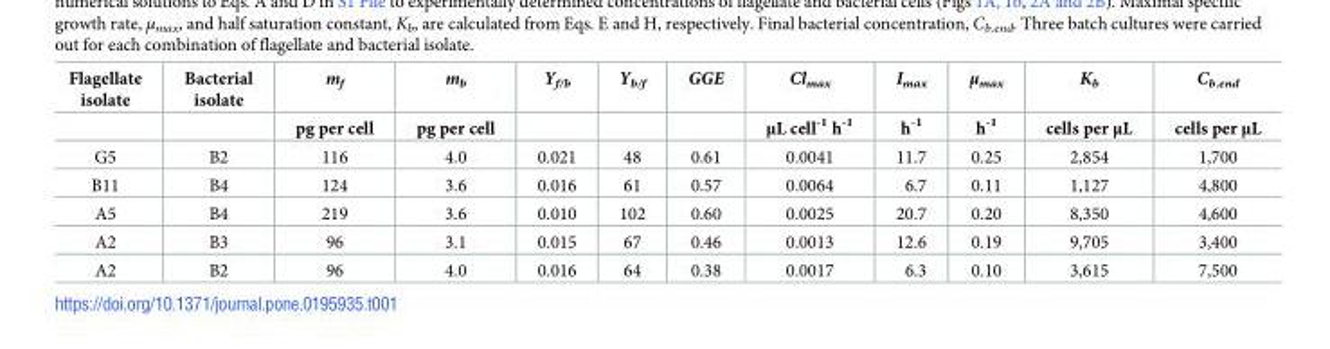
<table><thead><tr><td rowspan="2">Flagellate isolate</td><td rowspan="2">Bacterial isolate</td><td rowspan="2">m<sub>f</sub> pg per cell</td><td rowspan="2">m<sub>b</sub> pg per cell</td><td rowspan="2">Y<sub>f/b</sub></td><td rowspan="2">Y<sub>b/f</sub></td><td rowspan="2">GGE</td><td rowspan="2">Cl<sub>max</sub> μL cell<sup>-1</sup> h<sup>-1</sup></td><td rowspan="2">I<sub>max</sub> h<sup>-1</sup></td><td rowspan="2">μ<sub>max</sub> h<sup>-1</sup></td><td rowspan="2">K<sub>b</sub> cells per μL</td><td rowspan="2">C<sub>b.end</sub> cells per μL</td></tr><tr></tr></thead><tbody><tr><td>G5</td><td>B2</td><td>116</td><td>4.0</td><td>0.021</td><td>48</td><td>0.61</td><td>0.0041</td><td>11.7</td><td>0.25</td><td>2,854</td><td>1,700</td></tr><tr><td>B11</td><td>B4</td><td>124</td><td>3.6</td><td>0.016</td><td>61</td><td>0.57</td><td>0.0064</td><td>6.7</td><td>0.11</td><td>1,127</td><td>4,800</td></tr><tr><td>A5</td><td>B4</td><td>219</td><td>3.6</td><td>0.010</td><td>102</td><td>0.60</td><td>0.0025</td><td>20.7</td><td>0.20</td><td>8,350</td><td>4,600</td></tr><tr><td>A2</td><td>B3</td><td>96</td><td>3.1</td><td>0.015</td><td>67</td><td>0.46</td><td>0.0013</td><td>12.6</td><td>0.19</td><td>9,705</td><td>3,400</td></tr><tr><td>A2</td><td>B2</td><td>96</td><td>4.0</td><td>0.016</td><td>64</td><td>0.38</td><td>0.0017</td><td>6.3</td><td>0.10</td><td>3,615</td><td>7,500</td></tr></tbody></table>